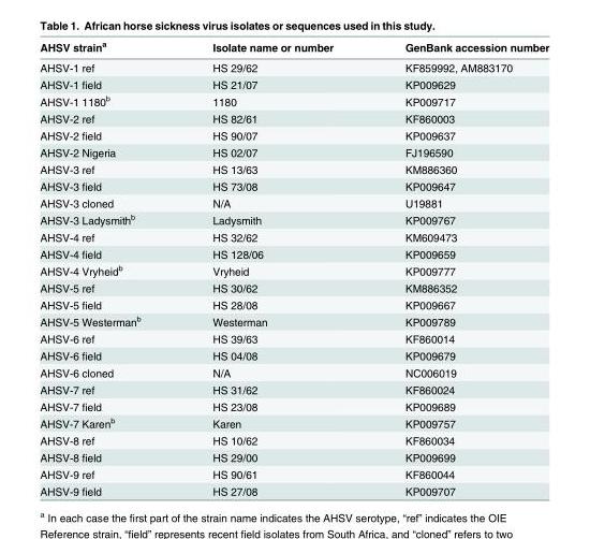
<table><thead><tr><td>AHSV strain<sup>a</sup></td><td>Isolate name or number</td><td>GenBank accession number</td></tr></thead><tbody><tr><td>AHSV-1 ref</td><td>HS 29/62</td><td>KF859992, AM883170</td></tr><tr><td>AHSV-1 field</td><td>HS 21/07</td><td>KP009629</td></tr><tr><td>AHSV-1 1180<sup>b</sup></td><td>1180</td><td>KP009717</td></tr><tr><td>AHSV-2 ref</td><td>HS 82/61</td><td>KF860003</td></tr><tr><td>AHSV-2 field</td><td>HS 90/07</td><td>KP009637</td></tr><tr><td>AHSV-2 Nigeria</td><td>HS 02/07</td><td>FJ196590</td></tr><tr><td>AHSV-3 ref</td><td>HS 13/63</td><td>KM886360</td></tr><tr><td>AHSV-3 field</td><td>HS 73/08</td><td>KP009647</td></tr><tr><td>AHSV-3 cloned</td><td>N/A</td><td>U19881</td></tr><tr><td>AHSV-3 Ladysmith<sup>b</sup></td><td>Ladysmith</td><td>KP009767</td></tr><tr><td>AHSV-4 ref</td><td>HS 32/62</td><td>KM609473</td></tr><tr><td>AHSV-4 field</td><td>HS 128/06</td><td>KP009659</td></tr><tr><td>AHSV-4 Vryheid<sup>b</sup></td><td>Vryheid</td><td>KP009777</td></tr><tr><td>AHSV-5 ref</td><td>HS 30/62</td><td>KM886352</td></tr><tr><td>AHSV-5 field</td><td>HS 28/08</td><td>KP009667</td></tr><tr><td>AHSV-5 Westerman<sup>b</sup></td><td>Westerman</td><td>KP009789</td></tr><tr><td>AHSV-6 ref</td><td>HS 39/63</td><td>KF860014</td></tr><tr><td>AHSV-6 field</td><td>HS 04/08</td><td>KP009679</td></tr><tr><td>AHSV-6 cloned</td><td>N/A</td><td>NC006019</td></tr><tr><td>AHSV-7 ref</td><td>HS 31/62</td><td>KF860024</td></tr><tr><td>AHSV-7 field</td><td>HS 23/08</td><td>KP009689</td></tr><tr><td>AHSV-7 Karen<sup>b</sup></td><td>Karen</td><td>KP009757</td></tr><tr><td>AHSV-8 ref</td><td>HS 10/62</td><td>KF860034</td></tr><tr><td>AHSV-8 field</td><td>HS 29/00</td><td>KP009699</td></tr><tr><td>AHSV-9 ref</td><td>HS 90/61</td><td>KF860044</td></tr><tr><td>AHSV-9 field</td><td>HS 27/08</td><td>KP009707</td></tr></tbody></table>